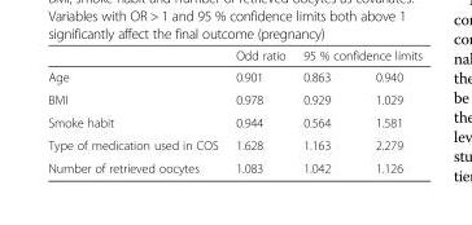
<table><thead><tr><td rowspan="2">Age</td><td rowspan="2">Odd ratio 0.901</td><td colspan="2">95 % confidence limits</td></tr><tr><td>0.863</td><td>0.940</td></tr></thead><tbody><tr><td>BMI</td><td>0.978</td><td>0.929</td><td>1.029</td></tr><tr><td>Smoke habit</td><td>0.944</td><td>0.564</td><td>1.581</td></tr><tr><td>Type of medication used in COS</td><td>1.628</td><td>1.163</td><td>2.279</td></tr><tr><td>Number of retrieved oocytes</td><td>1.083</td><td>1.042</td><td>1.126</td></tr></tbody></table>